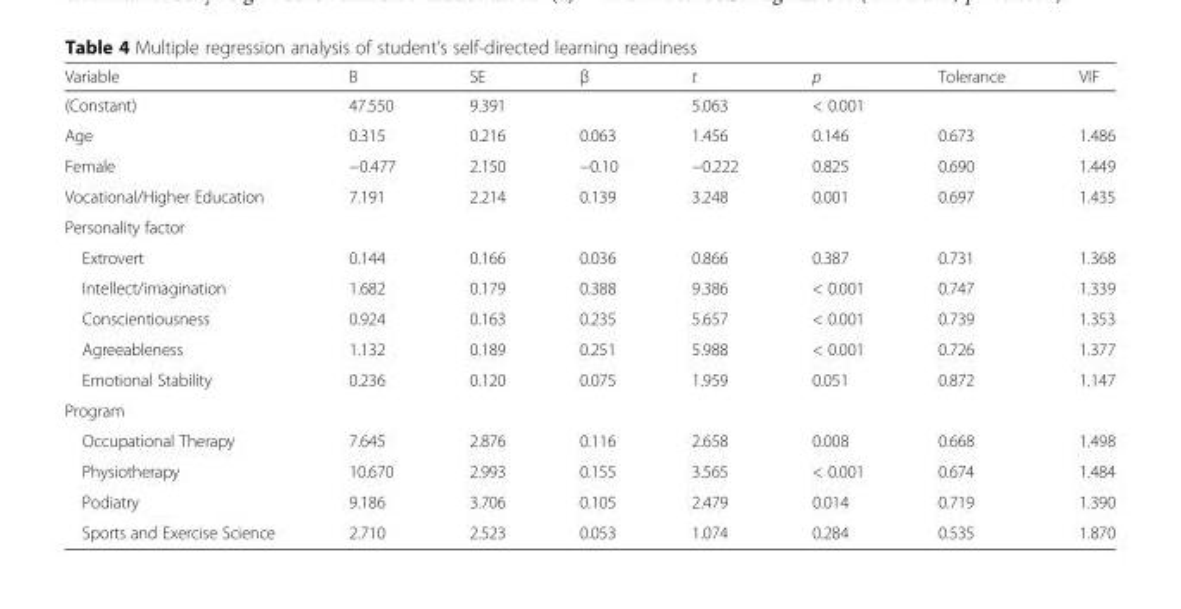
<table><thead><tr><td>Variable</td><td>B</td><td>SE</td><td>β</td><td>t</td><td>p</td><td>Tolerance</td><td>VIF</td></tr></thead><tbody><tr><td>(Constant)</td><td>47.550</td><td>9.391</td><td></td><td>5.063</td><td>&lt; 0.001</td><td></td><td></td></tr><tr><td>Age</td><td>0.315</td><td>0.216</td><td>0.063</td><td>1.456</td><td>0.146</td><td>0.673</td><td>1.486</td></tr><tr><td>Female</td><td>−0.477</td><td>2.150</td><td>−0.10</td><td>−0.222</td><td>0.825</td><td>0.690</td><td>1.449</td></tr><tr><td>Vocational/Higher Education</td><td>7.191</td><td>2.214</td><td>0.139</td><td>3.248</td><td>0.001</td><td>0.697</td><td>1.435</td></tr><tr><td colspan="8">Personality factor</td></tr><tr><td>Extrovert</td><td>0.144</td><td>0.166</td><td>0.036</td><td>0.866</td><td>0.387</td><td>0.731</td><td>1.368</td></tr><tr><td>Intellect/imagination</td><td>1.682</td><td>0.179</td><td>0.388</td><td>9.386</td><td>&lt; 0.001</td><td>0.747</td><td>1.339</td></tr><tr><td>Conscientiousness</td><td>0.924</td><td>0.163</td><td>0.235</td><td>5.657</td><td>&lt; 0.001</td><td>0.739</td><td>1.353</td></tr><tr><td>Agreeableness</td><td>1.132</td><td>0.189</td><td>0.251</td><td>5.988</td><td>&lt; 0.001</td><td>0.726</td><td>1.377</td></tr><tr><td>Emotional Stability</td><td>0.236</td><td>0.120</td><td>0.075</td><td>1.959</td><td>0.051</td><td>0.872</td><td>1.147</td></tr><tr><td colspan="8">Program</td></tr><tr><td>Occupational Therapy</td><td>7.645</td><td>2.876</td><td>0.116</td><td>2.658</td><td>0.008</td><td>0.668</td><td>1.498</td></tr><tr><td>Physiotherapy</td><td>10.670</td><td>2.993</td><td>0.155</td><td>3.565</td><td>&lt; 0.001</td><td>0.674</td><td>1.484</td></tr><tr><td>Podiatry</td><td>9.186</td><td>3.706</td><td>0.105</td><td>2.479</td><td>0.014</td><td>0.719</td><td>1.390</td></tr><tr><td>Sports and Exercise Science</td><td>2.710</td><td>2.523</td><td>0.053</td><td>1.074</td><td>0.284</td><td>0.535</td><td>1.870</td></tr></tbody></table>